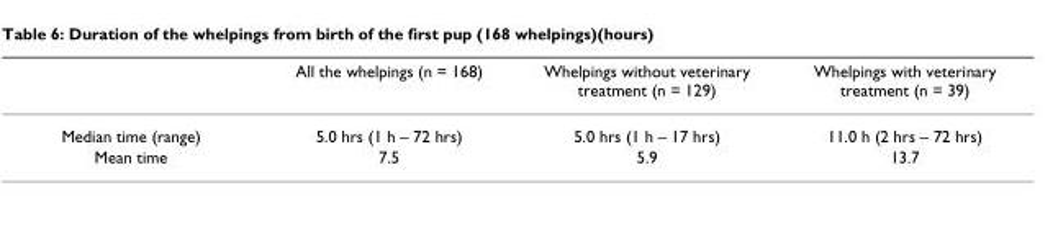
<table><thead><tr><td></td><td>All the whelpings (n = 168)</td><td>Whelpings without veterinary treatment (n = 129)</td><td>Whelpings with veterinary treatment (n = 39)</td></tr></thead><tbody><tr><td>Median time (range)</td><td>5.0 hrs (1 h – 72 hrs)</td><td>5.0 hrs (1 h – 17 hrs)</td><td>11.0 h (2 hrs – 72 hrs)</td></tr><tr><td>Mean time</td><td>7.5</td><td>5.9</td><td>13.7</td></tr></tbody></table>